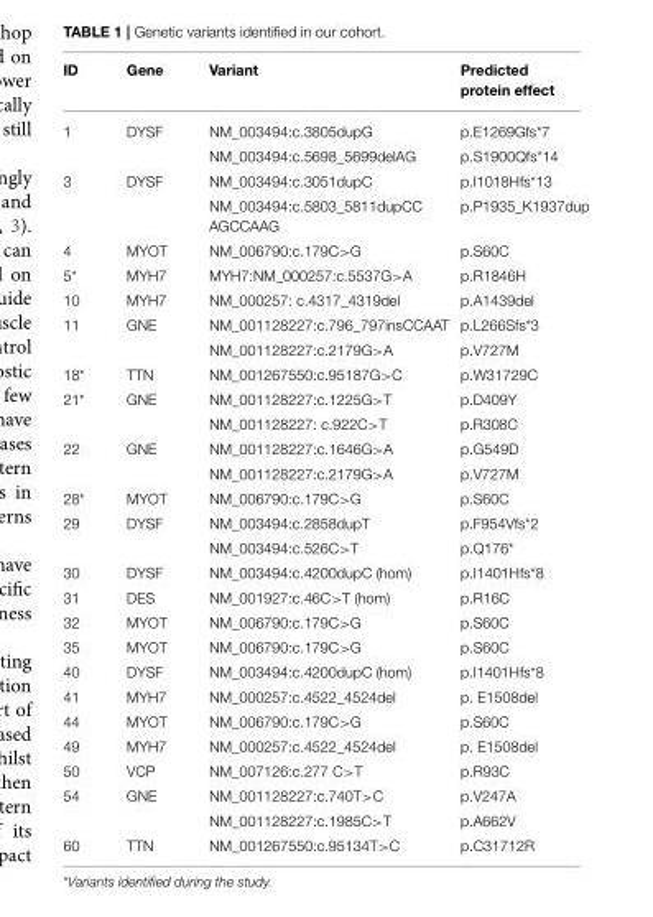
<table><thead><tr><td>ID</td><td>Gene</td><td>Variant</td><td>Predicted protein effect</td></tr></thead><tbody><tr><td rowspan="2">1</td><td>DYSF</td><td>NM_003494:c.3805dupG</td><td>p.E1269Gfs*7</td></tr><tr><td></td><td>NM_003494:c.5698_5699delAG</td><td>p.S1900Qfs*14</td></tr><tr><td rowspan="2">3</td><td>DYSF</td><td>NM_003494:c.3051dupC</td><td>p.I1018Hfs*13</td></tr><tr><td></td><td>NM_003494:c.5803_5811dupCC AGCCAAG</td><td>p.P1935_K1937dup</td></tr><tr><td>4</td><td>MYOT</td><td>NM_006790:c.179C&gt;G</td><td>p.S60C</td></tr><tr><td>5*</td><td>MYH7</td><td>MYH7:NM_000257:c.5537G&gt;A</td><td>p.R1846H</td></tr><tr><td>10</td><td>MYH7</td><td>NM_000257: c.4317_4319del</td><td>p.A1439del</td></tr><tr><td rowspan="2">11</td><td>GNE</td><td>NM_001128227:c.796_797insCCAAT</td><td>p.L266Sfs*3</td></tr><tr><td></td><td>NM_001128227:c.2179G&gt;A</td><td>p.V727M</td></tr><tr><td>18*</td><td>TTN</td><td>NM_001267550:c.95187G&gt;C</td><td>p.W31729C</td></tr><tr><td rowspan="2">21*</td><td>GNE</td><td>NM_001128227:c.1225G&gt;T</td><td>p.D409Y</td></tr><tr><td></td><td>NM_001128227: c.922C&gt;T</td><td>p.R308C</td></tr><tr><td rowspan="2">22</td><td>GNE</td><td>NM_001128227:c.1646G&gt;A</td><td>p.G549D</td></tr><tr><td></td><td>NM_001128227:c.2179G&gt;A</td><td>p.V727M</td></tr><tr><td>28*</td><td>MYOT</td><td>NM_006790:c.179C&gt;G</td><td>p.S60C</td></tr><tr><td rowspan="2">29</td><td>DYSF</td><td>NM_003494:c.2858dupT</td><td>p.F954Vfs*2</td></tr><tr><td></td><td>NM_003494:c.526C&gt;T</td><td>p.Q176*</td></tr><tr><td>30</td><td>DYSF</td><td>NM_003494:c.4200dupC (hom)</td><td>p.I1401Hfs*8</td></tr><tr><td>31</td><td>DES</td><td>NM_001927:c.46C&gt;T (hom)</td><td>p.R16C</td></tr><tr><td>32</td><td>MYOT</td><td>NM_006790:c.179C&gt;G</td><td>p.S60C</td></tr><tr><td>35</td><td>MYOT</td><td>NM_006790:c.179C&gt;G</td><td>p.S60C</td></tr><tr><td>40</td><td>DYSF</td><td>NM_003494:c.4200dupC (hom)</td><td>p.I1401Hfs*8</td></tr><tr><td>41</td><td>MYH7</td><td>NM_000257:c.4522_4524del</td><td>p. E1508del</td></tr><tr><td>44</td><td>MYOT</td><td>NM_006790:c.179C&gt;G</td><td>p.S60C</td></tr><tr><td>49</td><td>MYH7</td><td>NM_000257:c.4522_4524del</td><td>p. E1508del</td></tr><tr><td>50</td><td>VCP</td><td>NM_007126:c.277 C&gt;T</td><td>p.R93C</td></tr><tr><td rowspan="2">54</td><td>GNE</td><td>NM_001128227:c.740T&gt;C</td><td>p.V247A</td></tr><tr><td></td><td>NM_001128227:c.1985C&gt;T</td><td>p.A662V</td></tr><tr><td>60</td><td>TTN</td><td>NM_001267550:c.95134T&gt;C</td><td>p.C31712R</td></tr></tbody></table>